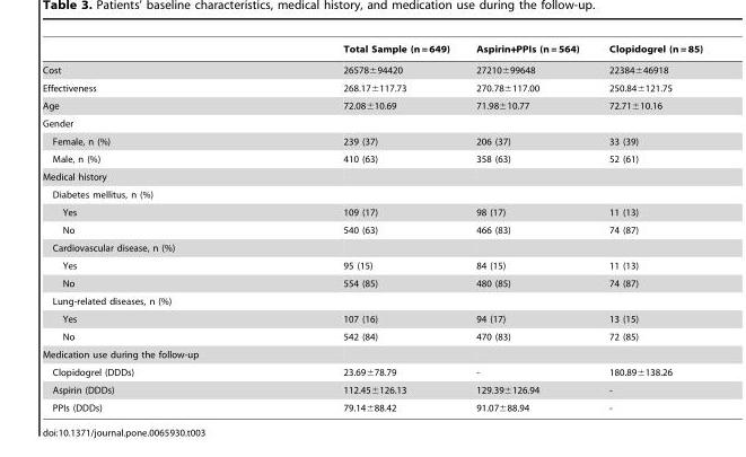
<table><thead><tr><td></td><td>Total Sample (n = 649)</td><td>Aspirin+PPIs (n = 564)</td><td>Clopidogrel (n = 85)</td></tr></thead><tbody><tr><td>Cost</td><td>26578±94420</td><td>27210±99648</td><td>22384±46918</td></tr><tr><td>Effectiveness</td><td>268.17±117.73</td><td>270.78±117.00</td><td>250.84±121.75</td></tr><tr><td>Age</td><td>72.08±10.69</td><td>71.98±10.77</td><td>72.71±10.16</td></tr><tr><td colspan="4">Gender</td></tr><tr><td>Female, n (%)</td><td>239 (37)</td><td>206 (37)</td><td>33 (39)</td></tr><tr><td>Male, n (%)</td><td>410 (63)</td><td>358 (63)</td><td>52 (61)</td></tr><tr><td colspan="4">Medical history</td></tr><tr><td colspan="4">Diabetes mellitus, n (%)</td></tr><tr><td>Yes</td><td>109 (17)</td><td>98 (17)</td><td>11 (13)</td></tr><tr><td>No</td><td>540 (63)</td><td>466 (83)</td><td>74 (87)</td></tr><tr><td colspan="4">Cardiovascular disease, n (%)</td></tr><tr><td>Yes</td><td>95 (15)</td><td>84 (15)</td><td>11 (13)</td></tr><tr><td>No</td><td>554 (85)</td><td>480 (85)</td><td>74 (87)</td></tr><tr><td colspan="4">Lung-related diseases, n (%)</td></tr><tr><td>Yes</td><td>107 (16)</td><td>94 (17)</td><td>13 (15)</td></tr><tr><td>No</td><td>542 (84)</td><td>470 (83)</td><td>72 (85)</td></tr><tr><td colspan="4">Medication use during the follow-up</td></tr><tr><td>Clopidogrel (DDDs)</td><td>23.69±78.79</td><td>-</td><td>180.89±138.26</td></tr><tr><td>Aspirin (DDDs)</td><td>112.45±126.13</td><td>129.39±126.94</td><td>-</td></tr><tr><td>PPIs (DDDs)</td><td>79.14±88.42</td><td>91.07±88.94</td><td>-</td></tr></tbody></table>